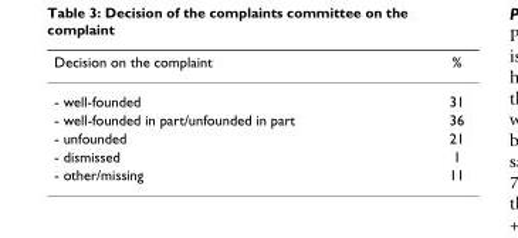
<table><thead><tr><td>Decision on the complaint</td><td>%</td></tr></thead><tbody><tr><td>- well-founded</td><td>31</td></tr><tr><td>- well-founded in part/unfounded in part</td><td>36</td></tr><tr><td>- unfounded</td><td>21</td></tr><tr><td>- dismissed</td><td>1</td></tr><tr><td>- other/missing</td><td>11</td></tr></tbody></table>